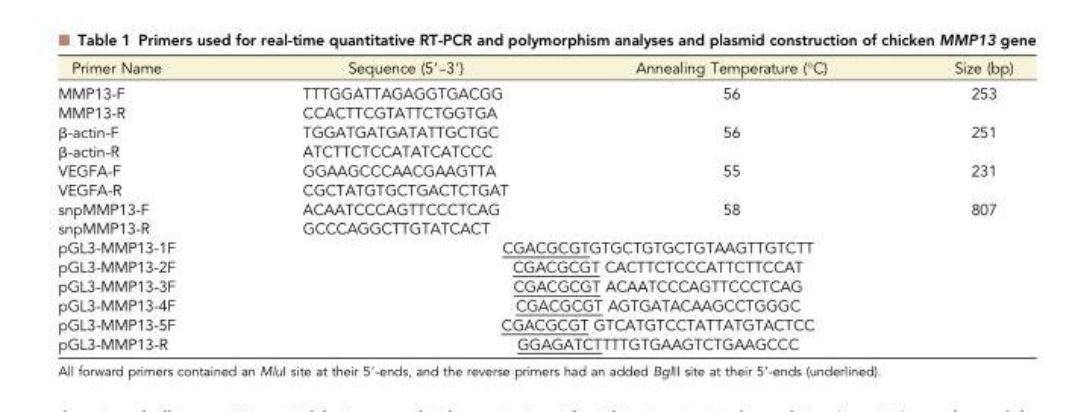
<table><thead><tr><td>Primer Name</td><td>Sequence (5′–3′)</td><td>Annealing Temperature (°C)</td><td>Size (bp)</td></tr></thead><tbody><tr><td>MMP13-F</td><td>TTTGGATTAGAGGTGACGG</td><td rowspan="2">56</td><td rowspan="2">253</td></tr><tr><td>MMP13-R</td><td>CCACTTCGTATTCTGGTGA</td></tr><tr><td>β-actin-F</td><td>TGGATGATGATATTGCTGC</td><td rowspan="2">56</td><td rowspan="2">251</td></tr><tr><td>β-actin-R</td><td>ATCTTCTCCATATCATCCC</td></tr><tr><td>VEGFA-F</td><td>GGAAGCCCAACGAAGTTA</td><td rowspan="2">55</td><td rowspan="2">231</td></tr><tr><td>VEGFA-R</td><td>CGCTATGTGCTGACTCTGAT</td></tr><tr><td>snpMMP13-F</td><td>ACAATCCCAGTTCCCTCAG</td><td rowspan="2">58</td><td rowspan="2">807</td></tr><tr><td>snpMMP13-R</td><td>GCCCAGGCTTGTATCACT</td></tr><tr><td>pGL3-MMP13-1F</td><td colspan="3">CGACGCGTGTGCTGTGCTGTAAGTTGTCTT</td></tr><tr><td>pGL3-MMP13-2F</td><td colspan="3">CGACGCGT CACTTCTCCCATTCTTCCAT</td></tr><tr><td>pGL3-MMP13-3F</td><td colspan="3">CGACGCGT ACAATCCCAGTTCCCTCAG</td></tr><tr><td>pGL3-MMP13-4F</td><td colspan="3">CGACGCGT AGTGATACAAGCCTGGGC</td></tr><tr><td>pGL3-MMP13-5F</td><td colspan="3">CGACGCGT GTCATGTCCTATTATGTACTCC</td></tr><tr><td>pGL3-MMP13-R</td><td colspan="3">GGAGATCTTTTGTGAAGTCTGAAGCCC</td></tr></tbody></table>